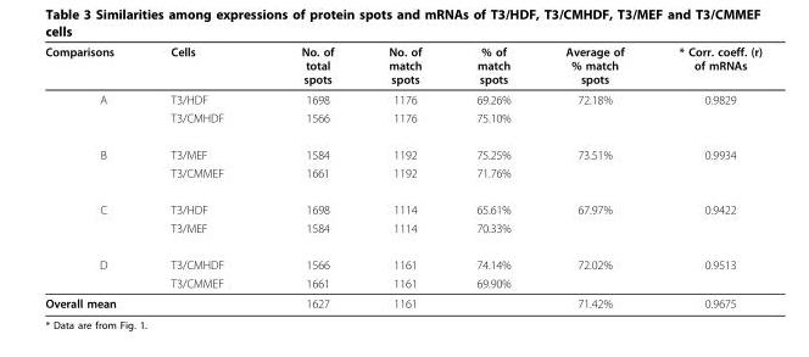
<table><thead><tr><td>Comparisons</td><td>Cells</td><td>No. of total spots</td><td>No. of match spots</td><td>% of match spots</td><td>Average of % match spots</td><td>* Corr. coeff. (r) of mRNAs</td></tr></thead><tbody><tr><td rowspan="2">A</td><td>T3/HDF</td><td>1698</td><td>1176</td><td>69.26%</td><td>72.18%</td><td>0.9829</td></tr><tr><td>T3/CMHDF</td><td>1566</td><td>1176</td><td>75.10%</td><td></td><td></td></tr><tr><td rowspan="2">B</td><td>T3/MEF</td><td>1584</td><td>1192</td><td>75.25%</td><td>73.51%</td><td>0.9934</td></tr><tr><td>T3/CMMEF</td><td>1661</td><td>1192</td><td>71.76%</td><td></td><td></td></tr><tr><td rowspan="2">C</td><td>T3/HDF</td><td>1698</td><td>1114</td><td>65.61%</td><td>67.97%</td><td>0.9422</td></tr><tr><td>T3/MEF</td><td>1584</td><td>1114</td><td>70.33%</td><td></td><td></td></tr><tr><td rowspan="2">D</td><td>T3/CMHDF</td><td>1566</td><td>1161</td><td>74.14%</td><td>72.02%</td><td>0.9513</td></tr><tr><td>T3/CMMEF</td><td>1661</td><td>1161</td><td>69.90%</td><td></td><td></td></tr><tr><td>Overall mean</td><td></td><td>1627</td><td>1161</td><td></td><td>71.42%</td><td>0.9675</td></tr></tbody></table>